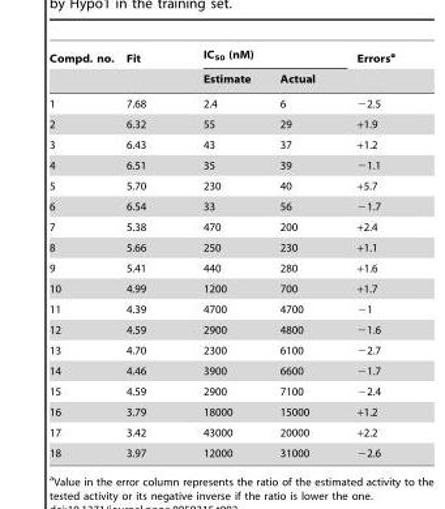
<table><thead><tr><td rowspan="2">Compd. no.</td><td rowspan="2">Fit</td><td colspan="2">IC<sub>50</sub> (nM)</td><td rowspan="2">Errors<sup>a</sup></td></tr><tr><td>Estimate</td><td>Actual</td></tr></thead><tbody><tr><td>1</td><td>7.68</td><td>2.4</td><td>6</td><td>−2.5</td></tr><tr><td>2</td><td>6.32</td><td>55</td><td>29</td><td>+1.9</td></tr><tr><td>3</td><td>6.43</td><td>43</td><td>37</td><td>+1.2</td></tr><tr><td>4</td><td>6.51</td><td>35</td><td>39</td><td>−1.1</td></tr><tr><td>5</td><td>5.70</td><td>230</td><td>40</td><td>+5.7</td></tr><tr><td>6</td><td>6.54</td><td>33</td><td>56</td><td>−1.7</td></tr><tr><td>7</td><td>5.38</td><td>470</td><td>200</td><td>+2.4</td></tr><tr><td>8</td><td>5.66</td><td>250</td><td>230</td><td>+1.1</td></tr><tr><td>9</td><td>5.41</td><td>440</td><td>280</td><td>+1.6</td></tr><tr><td>10</td><td>4.99</td><td>1200</td><td>700</td><td>+1.7</td></tr><tr><td>11</td><td>4.39</td><td>4700</td><td>4700</td><td>−1</td></tr><tr><td>12</td><td>4.59</td><td>2900</td><td>4800</td><td>−1.6</td></tr><tr><td>13</td><td>4.70</td><td>2300</td><td>6100</td><td>−2.7</td></tr><tr><td>14</td><td>4.46</td><td>3900</td><td>6600</td><td>−1.7</td></tr><tr><td>15</td><td>4.59</td><td>2900</td><td>7100</td><td>−2.4</td></tr><tr><td>16</td><td>3.79</td><td>18000</td><td>15000</td><td>+1.2</td></tr><tr><td>17</td><td>3.42</td><td>43000</td><td>20000</td><td>+2.2</td></tr><tr><td>18</td><td>3.97</td><td>12000</td><td>31000</td><td>−2.6</td></tr></tbody></table>